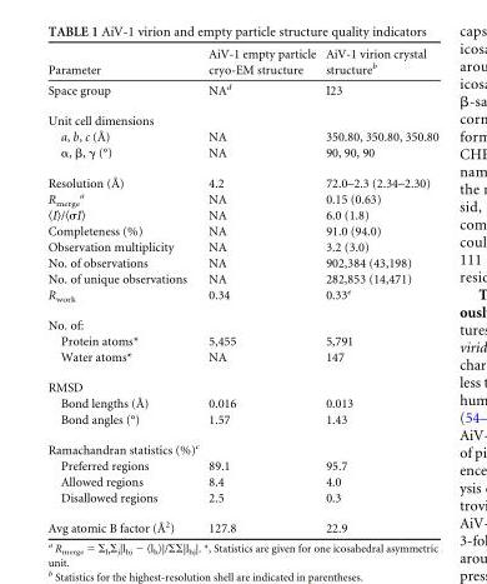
<table><thead><tr><td>Parameter</td><td>AiV-1 empty particle cryo-EM structure</td><td>AiV-1 virion crystal structure<sup>b</sup></td></tr></thead><tbody><tr><td>Space group</td><td>NA<sup>d</sup></td><td>I23</td></tr><tr><td colspan="3">Unit cell dimensions</td></tr><tr><td>a, b, c (Å)</td><td>NA</td><td>350.80, 350.80, 350.80</td></tr><tr><td>α, β, γ (°)</td><td>NA</td><td>90, 90, 90</td></tr><tr><td>Resolution (Å)</td><td>4.2</td><td>72.0–2.3 (2.34–2.30)</td></tr><tr><td>R<sub>merge</sub> <sup>a</sup></td><td>NA</td><td>0.15 (0.63)</td></tr><tr><td>〈I〉/〈σI〉</td><td>NA</td><td>6.0 (1.8)</td></tr><tr><td>Completeness (%)</td><td>NA</td><td>91.0 (94.0)</td></tr><tr><td>Observation multiplicity</td><td>NA</td><td>3.2 (3.0)</td></tr><tr><td>No. of observations</td><td>NA</td><td>902,384 (43,198)</td></tr><tr><td>No. of unique observations</td><td>NA</td><td>282,853 (14,471)</td></tr><tr><td>R<sub>work</sub></td><td>0.34</td><td>0.33<sup>e</sup></td></tr><tr><td colspan="3">No. of:</td></tr><tr><td>Protein atoms*</td><td>5,455</td><td>5,791</td></tr><tr><td>Water atoms*</td><td>NA</td><td>147</td></tr><tr><td colspan="3">RMSD</td></tr><tr><td>Bond lengths (Å)</td><td>0.016</td><td>0.013</td></tr><tr><td>Bond angles (°)</td><td>1.57</td><td>1.43</td></tr><tr><td colspan="3">Ramachandran statistics (%)<sup>c</sup></td></tr><tr><td>Preferred regions</td><td>89.1</td><td>95.7</td></tr><tr><td>Allowed regions</td><td>8.4</td><td>4.0</td></tr><tr><td>Disallowed regions</td><td>2.5</td><td>0.3</td></tr><tr><td>Avg atomic B factor (Å<sup>2</sup>)</td><td>127.8</td><td>22.9</td></tr></tbody></table>